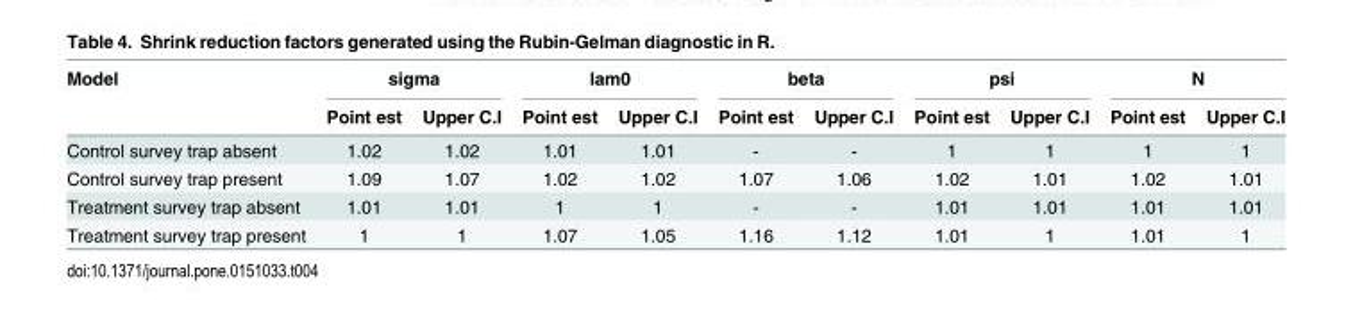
<table><thead><tr><td rowspan="2">Model</td><td colspan="2">sigma</td><td colspan="2">lam0</td><td colspan="2">beta</td><td colspan="2">psi</td><td colspan="2">N</td></tr><tr><td>Point est</td><td>Upper C.I</td><td>Point est</td><td>Upper C.I</td><td>Point est</td><td>Upper C.I</td><td>Point est</td><td>Upper C.I</td><td>Point est</td><td>Upper C.I</td></tr></thead><tbody><tr><td>Control survey trap absent</td><td>1.02</td><td>1.02</td><td>1.01</td><td>1.01</td><td>-</td><td>-</td><td>1</td><td>1</td><td>1</td><td>1</td></tr><tr><td>Control survey trap present</td><td>1.09</td><td>1.07</td><td>1.02</td><td>1.02</td><td>1.07</td><td>1.06</td><td>1.02</td><td>1.01</td><td>1.02</td><td>1.01</td></tr><tr><td>Treatment survey trap absent</td><td>1.01</td><td>1.01</td><td>1</td><td>1</td><td>-</td><td>-</td><td>1.01</td><td>1.01</td><td>1.01</td><td>1.01</td></tr><tr><td>Treatment survey trap present</td><td>1</td><td>1</td><td>1.07</td><td>1.05</td><td>1.16</td><td>1.12</td><td>1.01</td><td>1</td><td>1.01</td><td>1</td></tr></tbody></table>